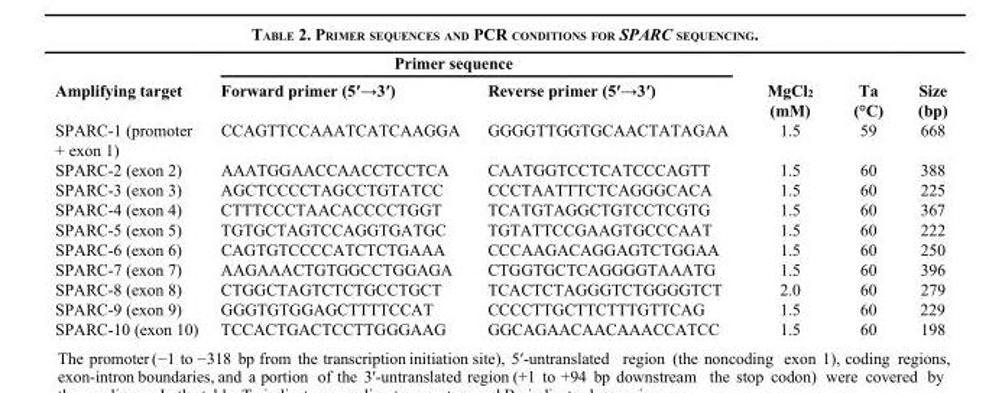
<table><thead><tr><td rowspan="2">Amplifying target</td><td colspan="2">Primer sequence</td><td rowspan="2">MgCl<sub>2</sub> (mM)</td><td rowspan="2">Ta (°C)</td><td rowspan="2">Size (bp)</td></tr><tr><td>Forward primer (5′→3′)</td><td>Reverse primer (5′→3′)</td></tr></thead><tbody><tr><td>SPARC-1 (promoter + exon 1)</td><td>CCAGTTCCAAATCATCAAGGA</td><td>GGGGTTGGTGCAACTATAGAA</td><td>1.5</td><td>59</td><td>668</td></tr><tr><td>SPARC-2 (exon 2)</td><td>AAATGGAACCAACCTCCTCA</td><td>CAATGGTCCTCATCCCAGTT</td><td>1.5</td><td>60</td><td>388</td></tr><tr><td>SPARC-3 (exon 3)</td><td>AGCTCCCCTAGCCTGTATCC</td><td>CCCTAATTTCTCAGGGCACA</td><td>1.5</td><td>60</td><td>225</td></tr><tr><td>SPARC-4 (exon 4)</td><td>CTTTCCCTAACACCCCTGGT</td><td>TCATGTAGGCTGTCCTCGTG</td><td>1.5</td><td>60</td><td>367</td></tr><tr><td>SPARC-5 (exon 5)</td><td>TGTGCTAGTCCAGGTGATGC</td><td>TGTATTCCGAAGTGCCCAAT</td><td>1.5</td><td>60</td><td>222</td></tr><tr><td>SPARC-6 (exon 6)</td><td>CAGTGTCCCCATCTCTGAAA</td><td>CCCAAGACAGGAGTCTGGAA</td><td>1.5</td><td>60</td><td>250</td></tr><tr><td>SPARC-7 (exon 7)</td><td>AAGAAACTGTGGCCTGGAGA</td><td>CTGGTGCTCAGGGGTAAATG</td><td>1.5</td><td>60</td><td>396</td></tr><tr><td>SPARC-8 (exon 8)</td><td>CTGGCTAGTCTCTGCCTGCT</td><td>TCACTCTAGGGTCTGGGGTCT</td><td>2.0</td><td>60</td><td>279</td></tr><tr><td>SPARC-9 (exon 9)</td><td>GGGTGTGGAGCTTTTCCAT</td><td>CCCCTTGCTTCTTTGTTCAG</td><td>1.5</td><td>60</td><td>229</td></tr><tr><td>SPARC-10 (exon 10)</td><td>TCCACTGACTCCTTGGGAAG</td><td>GGCAGAACAACAAACCATCC</td><td>1.5</td><td>60</td><td>198</td></tr></tbody></table>